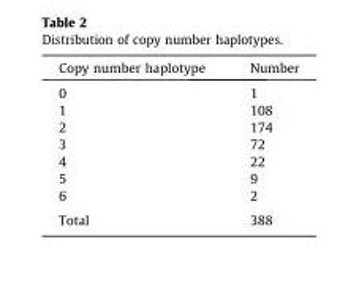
<table><thead><tr><td>Copy number haplotype</td><td>Number</td></tr></thead><tbody><tr><td>0</td><td>1</td></tr><tr><td>1</td><td>108</td></tr><tr><td>2</td><td>174</td></tr><tr><td>3</td><td>72</td></tr><tr><td>4</td><td>22</td></tr><tr><td>5</td><td>9</td></tr><tr><td>6</td><td>2</td></tr><tr><td>Total</td><td>388</td></tr></tbody></table>